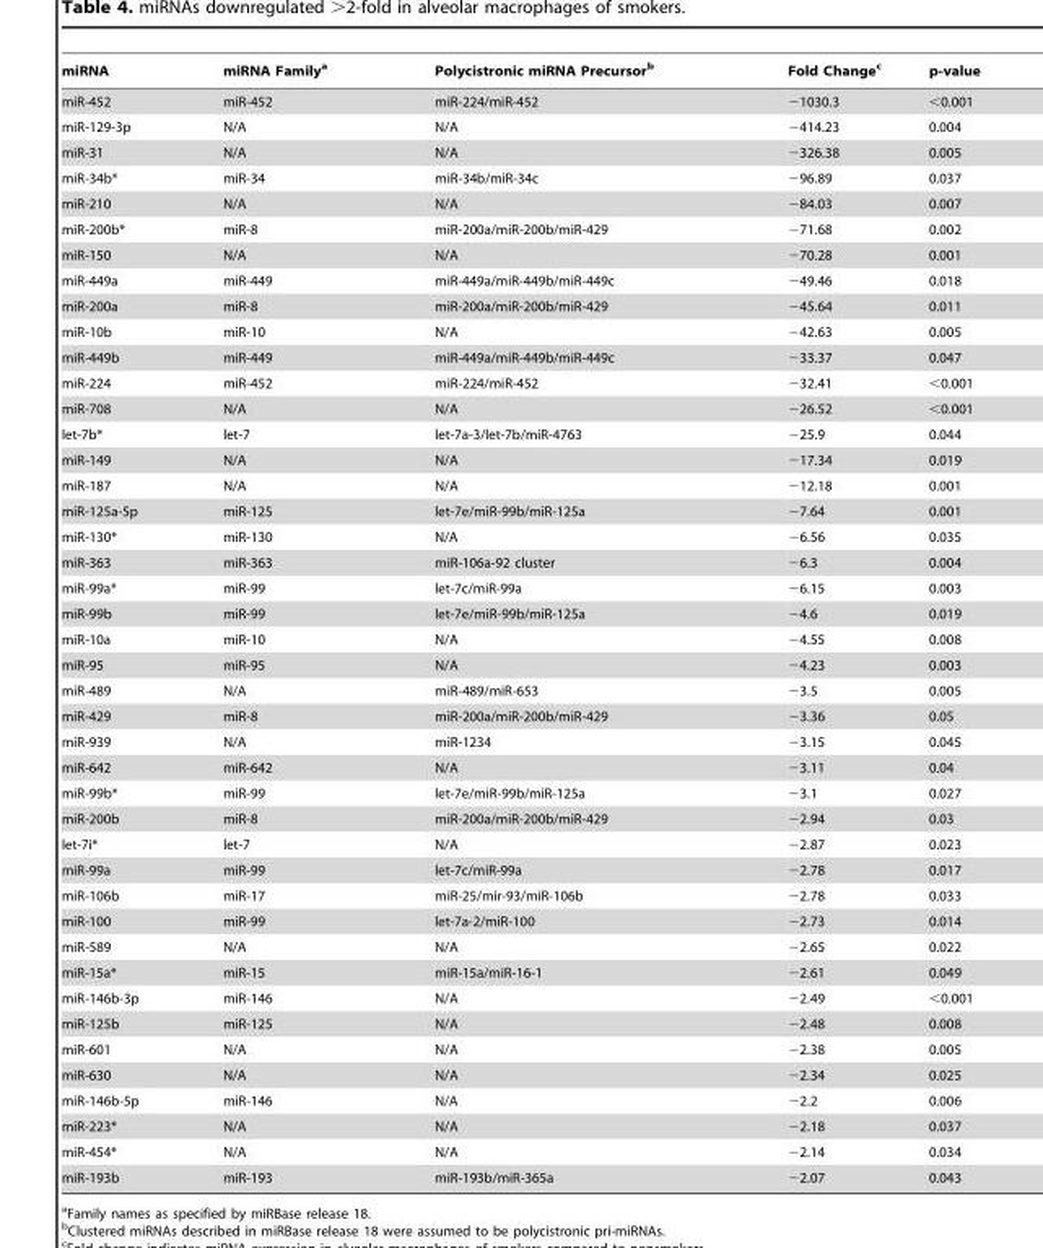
<table><thead><tr><td>miRNA</td><td>miRNA Family<sup>a</sup></td><td>Polycistronic miRNA Precursor<sup>b</sup></td><td>Fold Change<sup>c</sup></td><td>p-value</td></tr></thead><tbody><tr><td>miR-452</td><td>miR-452</td><td>miR-224/miR-452</td><td>−1030.3</td><td>&lt;0.001</td></tr><tr><td>miR-129-3p</td><td>N/A</td><td>N/A</td><td>−414.23</td><td>0.004</td></tr><tr><td>miR-31</td><td>N/A</td><td>N/A</td><td>−326.38</td><td>0.005</td></tr><tr><td>miR-34b*</td><td>miR-34</td><td>miR-34b/miR-34c</td><td>−96.89</td><td>0.037</td></tr><tr><td>miR-210</td><td>N/A</td><td>N/A</td><td>−84.03</td><td>0.007</td></tr><tr><td>miR-200b*</td><td>miR-8</td><td>miR-200a/miR-200b/miR-429</td><td>−71.68</td><td>0.002</td></tr><tr><td>miR-150</td><td>N/A</td><td>N/A</td><td>−70.28</td><td>0.001</td></tr><tr><td>miR-449a</td><td>miR-449</td><td>miR-449a/miR-449b/miR-449c</td><td>−49.46</td><td>0.018</td></tr><tr><td>miR-200a</td><td>miR-8</td><td>miR-200a/miR-200b/miR-429</td><td>−45.64</td><td>0.011</td></tr><tr><td>miR-10b</td><td>miR-10</td><td>N/A</td><td>−42.63</td><td>0.005</td></tr><tr><td>miR-449b</td><td>miR-449</td><td>miR-449a/miR-449b/miR-449c</td><td>−33.37</td><td>0.047</td></tr><tr><td>miR-224</td><td>miR-452</td><td>miR-224/miR-452</td><td>−32.41</td><td>&lt;0.001</td></tr><tr><td>miR-708</td><td>N/A</td><td>N/A</td><td>−26.52</td><td>&lt;0.001</td></tr><tr><td>let-7b*</td><td>let-7</td><td>let-7a-3/let-7b/miR-4763</td><td>−25.9</td><td>0.044</td></tr><tr><td>miR-149</td><td>N/A</td><td>N/A</td><td>−17.34</td><td>0.019</td></tr><tr><td>miR-187</td><td>N/A</td><td>N/A</td><td>−12.18</td><td>0.001</td></tr><tr><td>miR-125a-5p</td><td>miR-125</td><td>let-7e/miR-99b/miR-125a</td><td>−7.64</td><td>0.001</td></tr><tr><td>miR-130*</td><td>miR-130</td><td>N/A</td><td>−6.56</td><td>0.035</td></tr><tr><td>miR-363</td><td>miR-363</td><td>miR-106a-92 cluster</td><td>−6.3</td><td>0.004</td></tr><tr><td>miR-99a*</td><td>miR-99</td><td>let-7c/miR-99a</td><td>−6.15</td><td>0.003</td></tr><tr><td>miR-99b</td><td>miR-99</td><td>let-7e/miR-99b/miR-125a</td><td>−4.6</td><td>0.019</td></tr><tr><td>miR-10a</td><td>miR-10</td><td>N/A</td><td>−4.55</td><td>0.008</td></tr><tr><td>miR-95</td><td>miR-95</td><td>N/A</td><td>−4.23</td><td>0.003</td></tr><tr><td>miR-489</td><td>N/A</td><td>miR-489/miR-653</td><td>−3.5</td><td>0.005</td></tr><tr><td>miR-429</td><td>miR-8</td><td>miR-200a/miR-200b/miR-429</td><td>−3.36</td><td>0.05</td></tr><tr><td>miR-939</td><td>N/A</td><td>miR-1234</td><td>−3.15</td><td>0.045</td></tr><tr><td>miR-642</td><td>miR-642</td><td>N/A</td><td>−3.11</td><td>0.04</td></tr><tr><td>miR-99b*</td><td>miR-99</td><td>let-7e/miR-99b/miR-125a</td><td>−3.1</td><td>0.027</td></tr><tr><td>miR-200b</td><td>miR-8</td><td>miR-200a/miR-200b/miR-429</td><td>−2.94</td><td>0.03</td></tr><tr><td>let-7i*</td><td>let-7</td><td>N/A</td><td>−2.87</td><td>0.023</td></tr><tr><td>miR-99a</td><td>miR-99</td><td>let-7c/miR-99a</td><td>−2.78</td><td>0.017</td></tr><tr><td>miR-106b</td><td>miR-17</td><td>miR-25/mir-93/miR-106b</td><td>−2.78</td><td>0.033</td></tr><tr><td>miR-100</td><td>miR-99</td><td>let-7a-2/miR-100</td><td>−2.73</td><td>0.014</td></tr><tr><td>miR-589</td><td>N/A</td><td>N/A</td><td>−2.65</td><td>0.022</td></tr><tr><td>miR-15a*</td><td>miR-15</td><td>miR-15a/miR-16-1</td><td>−2.61</td><td>0.049</td></tr><tr><td>miR-146b-3p</td><td>miR-146</td><td>N/A</td><td>−2.49</td><td>&lt;0.001</td></tr><tr><td>miR-125b</td><td>miR-125</td><td>N/A</td><td>−2.48</td><td>0.008</td></tr><tr><td>miR-601</td><td>N/A</td><td>N/A</td><td>−2.38</td><td>0.005</td></tr><tr><td>miR-630</td><td>N/A</td><td>N/A</td><td>−2.34</td><td>0.025</td></tr><tr><td>miR-146b-5p</td><td>miR-146</td><td>N/A</td><td>−2.2</td><td>0.006</td></tr><tr><td>miR-223*</td><td>N/A</td><td>N/A</td><td>−2.18</td><td>0.037</td></tr><tr><td>miR-454*</td><td>N/A</td><td>N/A</td><td>−2.14</td><td>0.034</td></tr><tr><td>miR-193b</td><td>miR-193</td><td>miR-193b/miR-365a</td><td>−2.07</td><td>0.043</td></tr></tbody></table>